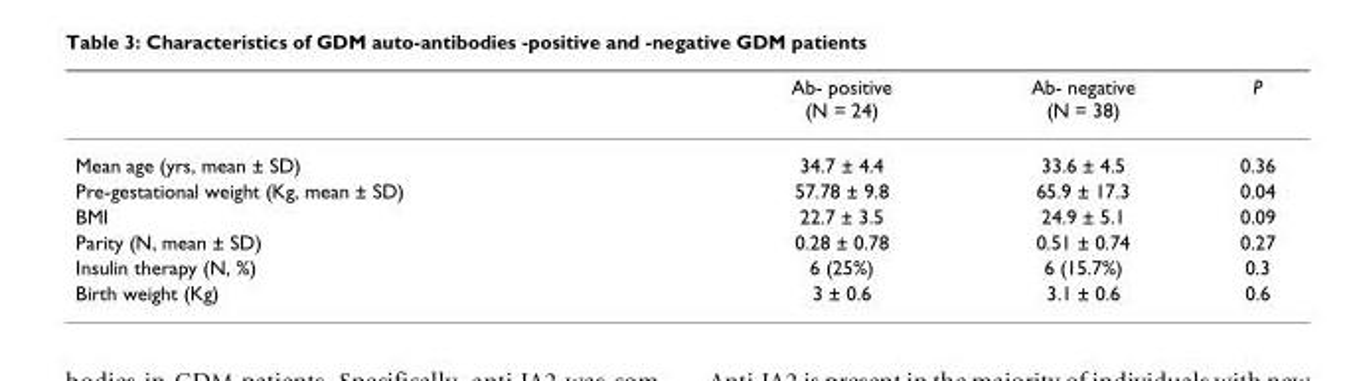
<table><thead><tr><td></td><td>Ab- positive (N = 24)</td><td>Ab- negative (N = 38)</td><td>P</td></tr></thead><tbody><tr><td>Mean age (yrs, mean ± SD)</td><td>34.7 ± 4.4</td><td>33.6 ± 4.5</td><td>0.36</td></tr><tr><td>Pre-gestational weight (Kg, mean ± SD)</td><td>57.78 ± 9.8</td><td>65.9 ± 17.3</td><td>0.04</td></tr><tr><td>BMI</td><td>22.7 ± 3.5</td><td>24.9 ± 5.1</td><td>0.09</td></tr><tr><td>Parity (N, mean ± SD)</td><td>0.28 ± 0.78</td><td>0.51 ± 0.74</td><td>0.27</td></tr><tr><td>Insulin therapy (N, %)</td><td>6 (25%)</td><td>6 (15.7%)</td><td>0.3</td></tr><tr><td>Birth weight (Kg)</td><td>3 ± 0.6</td><td>3.1 ± 0.6</td><td>0.6</td></tr></tbody></table>